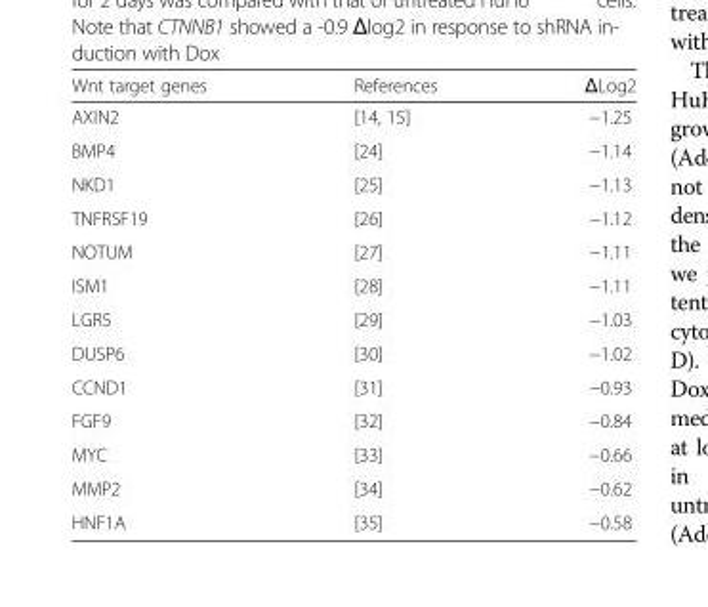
<table><thead><tr><td>Wnt target genes</td><td>References</td><td>ΔLog2</td></tr></thead><tbody><tr><td>AXIN2</td><td>[14, 15]</td><td>−1.25</td></tr><tr><td>BMP4</td><td>[24]</td><td>−1.14</td></tr><tr><td>NKD1</td><td>[25]</td><td>−1.13</td></tr><tr><td>TNFRSF19</td><td>[26]</td><td>−1.12</td></tr><tr><td>NOTUM</td><td>[27]</td><td>−1.11</td></tr><tr><td>ISM1</td><td>[28]</td><td>−1.11</td></tr><tr><td>LGR5</td><td>[29]</td><td>−1.03</td></tr><tr><td>DUSP6</td><td>[30]</td><td>−1.02</td></tr><tr><td>CCND1</td><td>[31]</td><td>−0.93</td></tr><tr><td>FGF9</td><td>[32]</td><td>−0.84</td></tr><tr><td>MYC</td><td>[33]</td><td>−0.66</td></tr><tr><td>MMP2</td><td>[34]</td><td>−0.62</td></tr><tr><td>HNF1A</td><td>[35]</td><td>−0.58</td></tr></tbody></table>